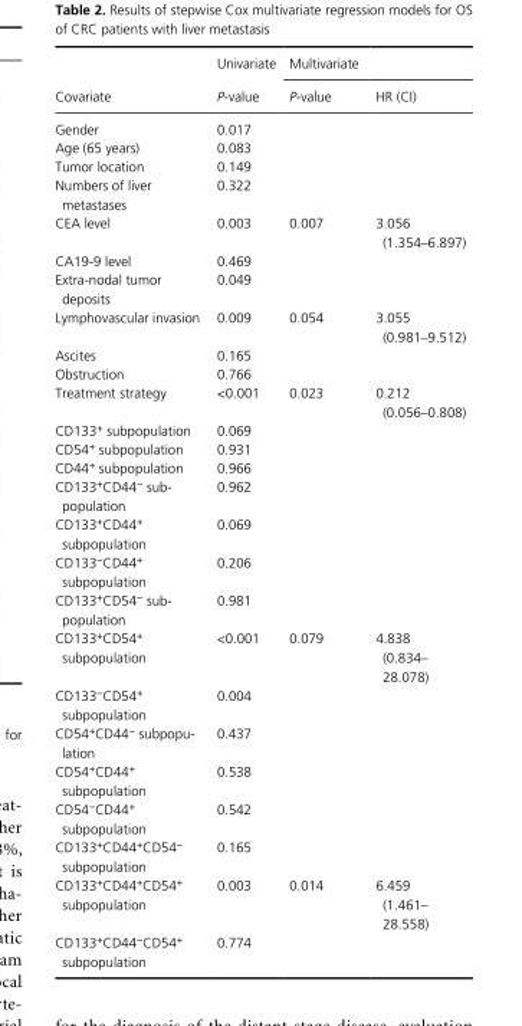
<table><thead><tr><td rowspan="2">Covariate</td><td rowspan="2">Univariate P- value</td><td colspan="2">Multivariate</td></tr><tr><td>P- value</td><td>HR (CI)</td></tr></thead><tbody><tr><td>Gender</td><td>0.017</td><td></td><td></td></tr><tr><td>Age (65 years)</td><td>0.083</td><td></td><td></td></tr><tr><td>Tumor location</td><td>0.149</td><td></td><td></td></tr><tr><td>Numbers of liver metastases</td><td>0.322</td><td></td><td></td></tr><tr><td>CEA level</td><td>0.003</td><td>0.007</td><td>3.056 (1.354–6.897)</td></tr><tr><td>CA19- 9 level</td><td>0.469</td><td></td><td></td></tr><tr><td>Extra- nodal tumor deposits</td><td>0.049</td><td></td><td></td></tr><tr><td>Lymphovascular invasion</td><td>0.009</td><td>0.054</td><td>3.055 (0.981–9.512)</td></tr><tr><td>Ascites</td><td>0.165</td><td></td><td></td></tr><tr><td>Obstruction</td><td>0.766</td><td></td><td></td></tr><tr><td>Treatment strategy</td><td>&lt;0.001</td><td>0.023</td><td>0.212 (0.056–0.808)</td></tr><tr><td>CD133<sup>+</sup> subpopulation</td><td>0.069</td><td></td><td></td></tr><tr><td>CD54<sup>+</sup> subpopulation</td><td>0.931</td><td></td><td></td></tr><tr><td>CD44<sup>+</sup> subpopulation</td><td>0.966</td><td></td><td></td></tr><tr><td>CD133+CD44− sub- population</td><td>0.962</td><td></td><td></td></tr><tr><td>CD133<sup>+</sup>CD44<sup>+</sup> subpopulation</td><td>0.069</td><td></td><td></td></tr><tr><td>CD133<sup>−</sup>CD44<sup>+</sup> subpopulation</td><td>0.206</td><td></td><td></td></tr><tr><td>CD133+CD54− sub- population</td><td>0.981</td><td></td><td></td></tr><tr><td>CD133<sup>+</sup>CD54<sup>+</sup> subpopulation</td><td>&lt;0.001</td><td>0.079</td><td>4.838 (0.834– 28.078)</td></tr><tr><td>CD133<sup>−</sup>CD54<sup>+</sup> subpopulation</td><td>0.004</td><td></td><td></td></tr><tr><td>CD54+CD44− subpopu- lation</td><td>0.437</td><td></td><td></td></tr><tr><td>CD54<sup>+</sup>CD44<sup>+</sup> subpopulation</td><td>0.538</td><td></td><td></td></tr><tr><td>CD54<sup>−</sup>CD44<sup>+</sup> subpopulation</td><td>0.542</td><td></td><td></td></tr><tr><td>CD133<sup>+</sup>CD44<sup>+</sup>CD54<sup>−</sup> subpopulation</td><td>0.165</td><td></td><td></td></tr><tr><td>CD133<sup>+</sup>CD44<sup>+</sup>CD54<sup>+</sup> subpopulation</td><td>0.003</td><td>0.014</td><td>6.459 (1.461– 28.558)</td></tr><tr><td>CD133<sup>+</sup>CD44<sup>−</sup>CD54<sup>+</sup> subpopulation</td><td>0.774</td><td></td><td></td></tr></tbody></table>